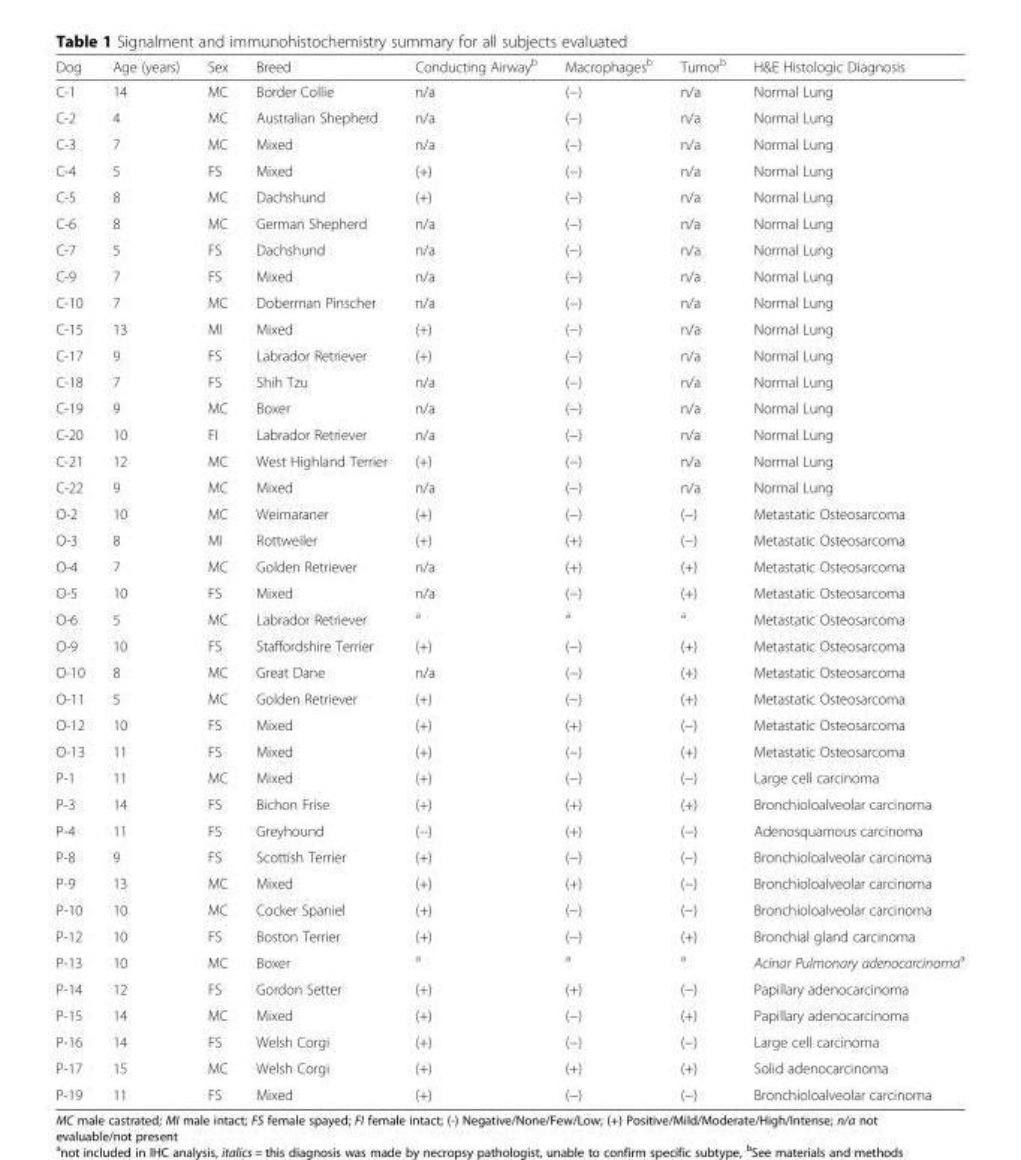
<table><thead><tr><td>Dog</td><td>Age (years)</td><td>Sex</td><td>Breed</td><td>Conducting Airway<sup>b</sup></td><td>Macrophages<sup>b</sup></td><td>Tumor<sup>b</sup></td><td>H&amp;E Histologic Diagnosis</td></tr></thead><tbody><tr><td>C-1</td><td>14</td><td>MC</td><td>Border Collie</td><td>n/a</td><td>(−)</td><td>n/a</td><td>Normal Lung</td></tr><tr><td>C-2</td><td>4</td><td>MC</td><td>Australian Shepherd</td><td>n/a</td><td>(−)</td><td>n/a</td><td>Normal Lung</td></tr><tr><td>C-3</td><td>7</td><td>MC</td><td>Mixed</td><td>n/a</td><td>(−)</td><td>n/a</td><td>Normal Lung</td></tr><tr><td>C-4</td><td>5</td><td>FS</td><td>Mixed</td><td>(+)</td><td>(−)</td><td>n/a</td><td>Normal Lung</td></tr><tr><td>C-5</td><td>8</td><td>MC</td><td>Dachshund</td><td>(+)</td><td>(−)</td><td>n/a</td><td>Normal Lung</td></tr><tr><td>C-6</td><td>8</td><td>MC</td><td>German Shepherd</td><td>n/a</td><td>(−)</td><td>n/a</td><td>Normal Lung</td></tr><tr><td>C-7</td><td>5</td><td>FS</td><td>Dachshund</td><td>n/a</td><td>(−)</td><td>n/a</td><td>Normal Lung</td></tr><tr><td>C-9</td><td>7</td><td>FS</td><td>Mixed</td><td>n/a</td><td>(−)</td><td>n/a</td><td>Normal Lung</td></tr><tr><td>C-10</td><td>7</td><td>MC</td><td>Doberman Pinscher</td><td>n/a</td><td>(−)</td><td>n/a</td><td>Normal Lung</td></tr><tr><td>C-15</td><td>13</td><td>MI</td><td>Mixed</td><td>(+)</td><td>(−)</td><td>n/a</td><td>Normal Lung</td></tr><tr><td>C-17</td><td>9</td><td>FS</td><td>Labrador Retriever</td><td>(+)</td><td>(−)</td><td>n/a</td><td>Normal Lung</td></tr><tr><td>C-18</td><td>7</td><td>FS</td><td>Shih Tzu</td><td>n/a</td><td>(−)</td><td>n/a</td><td>Normal Lung</td></tr><tr><td>C-19</td><td>9</td><td>MC</td><td>Boxer</td><td>n/a</td><td>(−)</td><td>n/a</td><td>Normal Lung</td></tr><tr><td>C-20</td><td>10</td><td>FI</td><td>Labrador Retriever</td><td>n/a</td><td>(−)</td><td>n/a</td><td>Normal Lung</td></tr><tr><td>C-21</td><td>12</td><td>MC</td><td>West Highland Terrier</td><td>(+)</td><td>(−)</td><td>n/a</td><td>Normal Lung</td></tr><tr><td>C-22</td><td>9</td><td>MC</td><td>Mixed</td><td>n/a</td><td>(−)</td><td>n/a</td><td>Normal Lung</td></tr><tr><td>O-2</td><td>10</td><td>MC</td><td>Weimaraner</td><td>(+)</td><td>(−)</td><td>(−)</td><td>Metastatic Osteosarcoma</td></tr><tr><td>O-3</td><td>8</td><td>MI</td><td>Rottweiler</td><td>(+)</td><td>(+)</td><td>(−)</td><td>Metastatic Osteosarcoma</td></tr><tr><td>O-4</td><td>7</td><td>MC</td><td>Golden Retriever</td><td>n/a</td><td>(+)</td><td>(+)</td><td>Metastatic Osteosarcoma</td></tr><tr><td>O-5</td><td>10</td><td>FS</td><td>Mixed</td><td>n/a</td><td>(−)</td><td>(+)</td><td>Metastatic Osteosarcoma</td></tr><tr><td>O-6</td><td>5</td><td>MC</td><td>Labrador Retriever</td><td><sup>a</sup></td><td><sup>a</sup></td><td><sup>a</sup></td><td>Metastatic Osteosarcoma</td></tr><tr><td>O-9</td><td>10</td><td>FS</td><td>Staffordshire Terrier</td><td>(+)</td><td>(−)</td><td>(+)</td><td>Metastatic Osteosarcoma</td></tr><tr><td>O-10</td><td>8</td><td>MC</td><td>Great Dane</td><td>n/a</td><td>(−)</td><td>(+)</td><td>Metastatic Osteosarcoma</td></tr><tr><td>O-11</td><td>5</td><td>MC</td><td>Golden Retriever</td><td>(+)</td><td>(−)</td><td>(+)</td><td>Metastatic Osteosarcoma</td></tr><tr><td>O-12</td><td>10</td><td>FS</td><td>Mixed</td><td>(+)</td><td>(+)</td><td>(−)</td><td>Metastatic Osteosarcoma</td></tr><tr><td>O-13</td><td>11</td><td>FS</td><td>Mixed</td><td>(+)</td><td>(−)</td><td>(+)</td><td>Metastatic Osteosarcoma</td></tr><tr><td>P-1</td><td>11</td><td>MC</td><td>Mixed</td><td>(+)</td><td>(−)</td><td>(−)</td><td>Large cell carcinoma</td></tr><tr><td>P-3</td><td>14</td><td>FS</td><td>Bichon Frise</td><td>(+)</td><td>(+)</td><td>(+)</td><td>Bronchioloalveolar carcinoma</td></tr><tr><td>P-4</td><td>11</td><td>FS</td><td>Greyhound</td><td>(−)</td><td>(+)</td><td>(−)</td><td>Adenosquamous carcinoma</td></tr><tr><td>P-8</td><td>9</td><td>FS</td><td>Scottish Terrier</td><td>(+)</td><td>(−)</td><td>(−)</td><td>Bronchioloalveolar carcinoma</td></tr><tr><td>P-9</td><td>13</td><td>MC</td><td>Mixed</td><td>(+)</td><td>(+)</td><td>(−)</td><td>Bronchioloalveolar carcinoma</td></tr><tr><td>P-10</td><td>10</td><td>MC</td><td>Cocker Spaniel</td><td>(+)</td><td>(−)</td><td>(−)</td><td>Bronchioloalveolar carcinoma</td></tr><tr><td>P-12</td><td>10</td><td>FS</td><td>Boston Terrier</td><td>(+)</td><td>(−)</td><td>(+)</td><td>Bronchial gland carcinoma</td></tr><tr><td>P-13</td><td>10</td><td>MC</td><td>Boxer</td><td><sup>a</sup></td><td><sup>a</sup></td><td><sup>a</sup></td><td>Acinar Pulmonary adenocarcinoma<sup>a</sup></td></tr><tr><td>P-14</td><td>12</td><td>FS</td><td>Gordon Setter</td><td>(+)</td><td>(+)</td><td>(−)</td><td>Papillary adenocarcinoma</td></tr><tr><td>P-15</td><td>14</td><td>MC</td><td>Mixed</td><td>(+)</td><td>(−)</td><td>(+)</td><td>Papillary adenocarcinoma</td></tr><tr><td>P-16</td><td>14</td><td>FS</td><td>Welsh Corgi</td><td>(+)</td><td>(−)</td><td>(−)</td><td>Large cell carcinoma</td></tr><tr><td>P-17</td><td>15</td><td>MC</td><td>Welsh Corgi</td><td>(+)</td><td>(+)</td><td>(+)</td><td>Solid adenocarcinoma</td></tr><tr><td>P-19</td><td>11</td><td>FS</td><td>Mixed</td><td>(+)</td><td>(−)</td><td>(−)</td><td>Bronchioloalveolar carcinoma</td></tr></tbody></table>